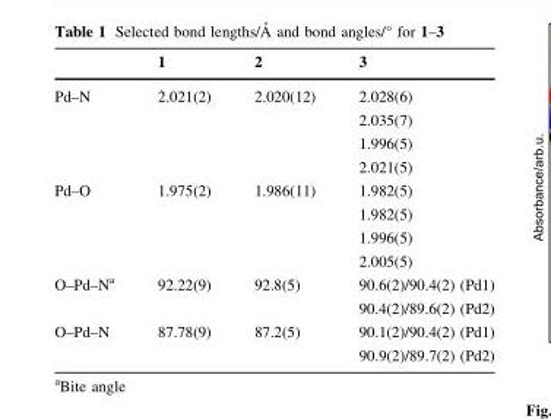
<table><thead><tr><td></td><td>1</td><td>2</td><td>3</td></tr></thead><tbody><tr><td>Pd–N</td><td>2.021(2)</td><td>2.020(12)</td><td>2.028(6) 2.035(7) 1.996(5) 2.021(5)</td></tr><tr><td>Pd–O</td><td>1.975(2)</td><td>1.986(11)</td><td>1.982(5) 1.982(5) 1.996(5) 2.005(5)</td></tr><tr><td>O–Pd–N<sup>a</sup></td><td>92.22(9)</td><td>92.8(5)</td><td>90.6(2)/90.4(2) (Pd1) 90.4(2)/89.6(2) (Pd2)</td></tr><tr><td>O–Pd–N</td><td>87.78(9)</td><td>87.2(5)</td><td>90.1(2)/90.4(2) (Pd1) 90.9(2)/89.7(2) (Pd2)</td></tr></tbody></table>